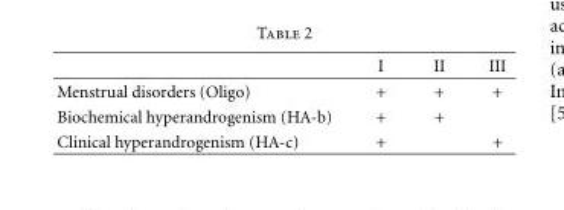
<table><thead><tr><td></td><td>I</td><td>II</td><td>III</td></tr></thead><tbody><tr><td>Menstrual disorders (Oligo)</td><td>+</td><td>+</td><td>+</td></tr><tr><td>Biochemical hyperandrogenism (HA-b)</td><td>+</td><td>+</td><td></td></tr><tr><td>Clinical hyperandrogenism (HA-c)</td><td>+</td><td></td><td>+</td></tr></tbody></table>